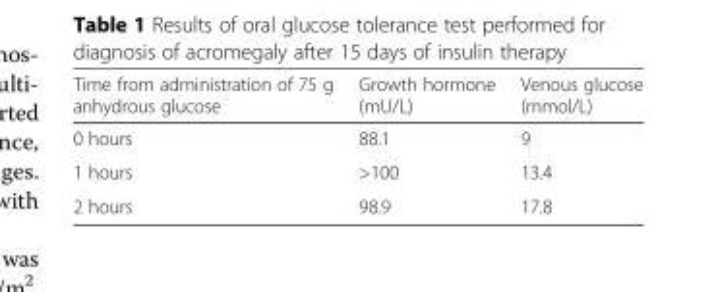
<table><thead><tr><td>Time from administration of 75 g anhydrous glucose</td><td>Growth hormone (mU/L)</td><td>Venous glucose (mmol/L)</td></tr></thead><tbody><tr><td>0 hours</td><td>88.1</td><td>9</td></tr><tr><td>1 hours</td><td>&gt;100</td><td>13.4</td></tr><tr><td>2 hours</td><td>98.9</td><td>17.8</td></tr></tbody></table>